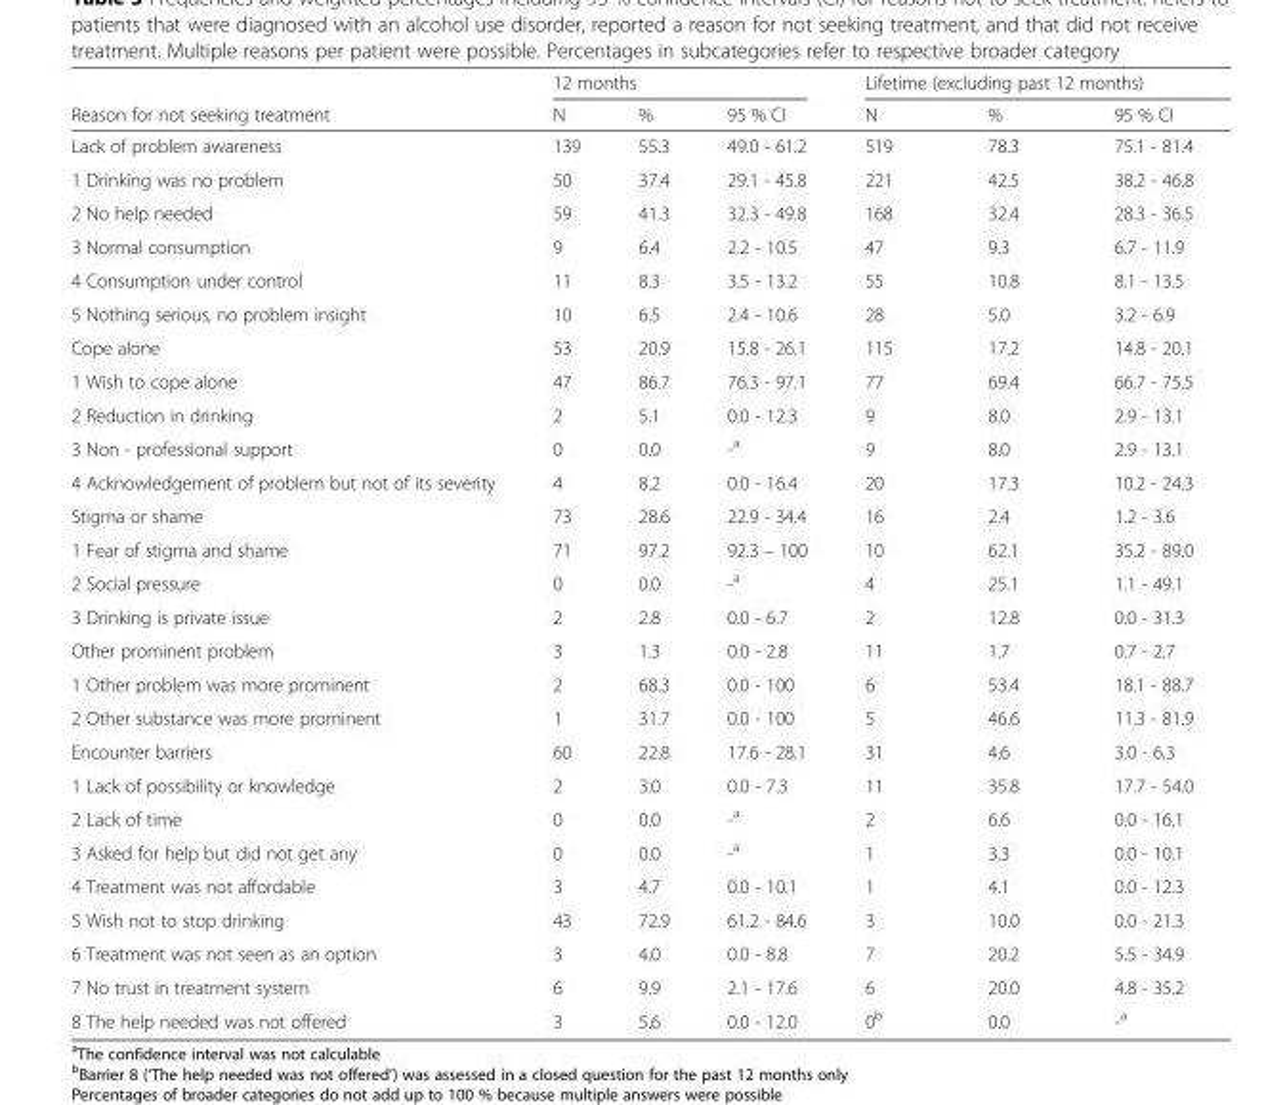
<table><thead><tr><td rowspan="2">Reason for not seeking treatment</td><td colspan="3">12 months</td><td colspan="3">Lifetime (excluding past 12 months)</td></tr><tr><td>N</td><td>%</td><td>95 % CI</td><td>N</td><td>%</td><td>95 % CI</td></tr></thead><tbody><tr><td>Lack of problem awareness</td><td>139</td><td>55.3</td><td>49.0 - 61.2</td><td>519</td><td>78.3</td><td>75.1 - 81.4</td></tr><tr><td>1 Drinking was no problem</td><td>50</td><td>37.4</td><td>29.1 - 45.8</td><td>221</td><td>42.5</td><td>38.2 - 46.8</td></tr><tr><td>2 No help needed</td><td>59</td><td>41.3</td><td>32.3 - 49.8</td><td>168</td><td>32.4</td><td>28.3 - 36.5</td></tr><tr><td>3 Normal consumption</td><td>9</td><td>6.4</td><td>2.2 - 10.5</td><td>47</td><td>9.3</td><td>6.7 - 11.9</td></tr><tr><td>4 Consumption under control</td><td>11</td><td>8.3</td><td>3.5 - 13.2</td><td>55</td><td>10.8</td><td>8.1 - 13.5</td></tr><tr><td>5 Nothing serious, no problem insight</td><td>10</td><td>6.5</td><td>2.4 - 10.6</td><td>28</td><td>5.0</td><td>3.2 - 6.9</td></tr><tr><td>Cope alone</td><td>53</td><td>20.9</td><td>15.8 - 26.1</td><td>115</td><td>17.2</td><td>14.8 - 20.1</td></tr><tr><td>1 Wish to cope alone</td><td>47</td><td>86.7</td><td>76.3 - 97.1</td><td>77</td><td>69.4</td><td>66.7 - 75.5</td></tr><tr><td>2 Reduction in drinking</td><td>2</td><td>5.1</td><td>0.0 - 12.3</td><td>9</td><td>8.0</td><td>2.9 - 13.1</td></tr><tr><td>3 Non - professional support</td><td>0</td><td>0.0</td><td>-<sup>a</sup></td><td>9</td><td>8.0</td><td>2.9 - 13.1</td></tr><tr><td>4 Acknowledgement of problem but not of its severity</td><td>4</td><td>8.2</td><td>0.0 - 16.4</td><td>20</td><td>17.3</td><td>10.2 - 24.3</td></tr><tr><td>Stigma or shame</td><td>73</td><td>28.6</td><td>22.9 - 34.4</td><td>16</td><td>2.4</td><td>1.2 - 3.6</td></tr><tr><td>1 Fear of stigma and shame</td><td>71</td><td>97.2</td><td>92.3 – 100</td><td>10</td><td>62.1</td><td>35.2 - 89.0</td></tr><tr><td>2 Social pressure</td><td>0</td><td>0.0</td><td>-<sup>a</sup></td><td>4</td><td>25.1</td><td>1.1 - 49.1</td></tr><tr><td>3 Drinking is private issue</td><td>2</td><td>2.8</td><td>0.0 - 6.7</td><td>2</td><td>12.8</td><td>0.0 - 31.3</td></tr><tr><td>Other prominent problem</td><td>3</td><td>1.3</td><td>0.0 - 2.8</td><td>11</td><td>1.7</td><td>0.7 - 2.7</td></tr><tr><td>1 Other problem was more prominent</td><td>2</td><td>68.3</td><td>0.0 - 100</td><td>6</td><td>53.4</td><td>18.1 - 88.7</td></tr><tr><td>2 Other substance was more prominent</td><td>1</td><td>31.7</td><td>0.0 - 100</td><td>5</td><td>46.6</td><td>11.3 - 81.9</td></tr><tr><td>Encounter barriers</td><td>60</td><td>22.8</td><td>17.6 - 28.1</td><td>31</td><td>4.6</td><td>3.0 - 6.3</td></tr><tr><td>1 Lack of possibility or knowledge</td><td>2</td><td>3.0</td><td>0.0 - 7.3</td><td>11</td><td>35.8</td><td>17.7 - 54.0</td></tr><tr><td>2 Lack of time</td><td>0</td><td>0.0</td><td>-<sup>a</sup></td><td>2</td><td>6.6</td><td>0.0 - 16.1</td></tr><tr><td>3 Asked for help but did not get any</td><td>0</td><td>0.0</td><td>-<sup>a</sup></td><td>1</td><td>3.3</td><td>0.0 - 10.1</td></tr><tr><td>4 Treatment was not affordable</td><td>3</td><td>4.7</td><td>0.0 - 10.1</td><td>1</td><td>4.1</td><td>0.0 - 12.3</td></tr><tr><td>5 Wish not to stop drinking</td><td>43</td><td>72.9</td><td>61.2 - 84.6</td><td>3</td><td>10.0</td><td>0.0 - 21.3</td></tr><tr><td>6 Treatment was not seen as an option</td><td>3</td><td>4.0</td><td>0.0 - 8.8</td><td>7</td><td>20.2</td><td>5.5 - 34.9</td></tr><tr><td>7 No trust in treatment system</td><td>6</td><td>9.9</td><td>2.1 - 17.6</td><td>6</td><td>20.0</td><td>4.8 - 35.2</td></tr><tr><td>8 The help needed was not offered</td><td>3</td><td>5.6</td><td>0.0 - 12.0</td><td>0<sup>b</sup></td><td>0.0</td><td>-<sup>a</sup></td></tr></tbody></table>